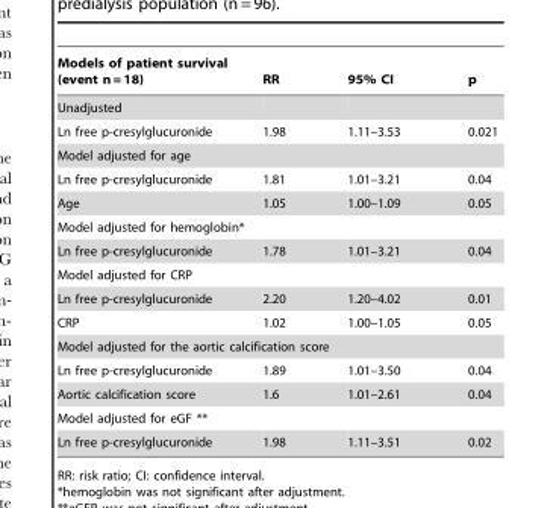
<table><thead><tr><td>Models of patient survival (event n = 18)</td><td>RR</td><td>95% CI</td><td>p</td></tr></thead><tbody><tr><td colspan="4">Unadjusted</td></tr><tr><td>Ln free p-cresylglucuronide</td><td>1.98</td><td>1.11–3.53</td><td>0.021</td></tr><tr><td colspan="4">Model adjusted for age</td></tr><tr><td>Ln free p-cresylglucuronide</td><td>1.81</td><td>1.01–3.21</td><td>0.04</td></tr><tr><td>Age</td><td>1.05</td><td>1.00–1.09</td><td>0.05</td></tr><tr><td colspan="4">Model adjusted for hemoglobin*</td></tr><tr><td>Ln free p-cresylglucuronide</td><td>1.78</td><td>1.01–3.21</td><td>0.04</td></tr><tr><td colspan="4">Model adjusted for CRP</td></tr><tr><td>Ln free p-cresylglucuronide</td><td>2.20</td><td>1.20–4.02</td><td>0.01</td></tr><tr><td>CRP</td><td>1.02</td><td>1.00–1.05</td><td>0.05</td></tr><tr><td colspan="4">Model adjusted for the aortic calcification score</td></tr><tr><td>Ln free p-cresylglucuronide</td><td>1.89</td><td>1.01–3.50</td><td>0.04</td></tr><tr><td>Aortic calcification score</td><td>1.6</td><td>1.01–2.61</td><td>0.04</td></tr><tr><td colspan="4">Model adjusted for eGF **</td></tr><tr><td>Ln free p-cresylglucuronide</td><td>1.98</td><td>1.11–3.51</td><td>0.02</td></tr></tbody></table>